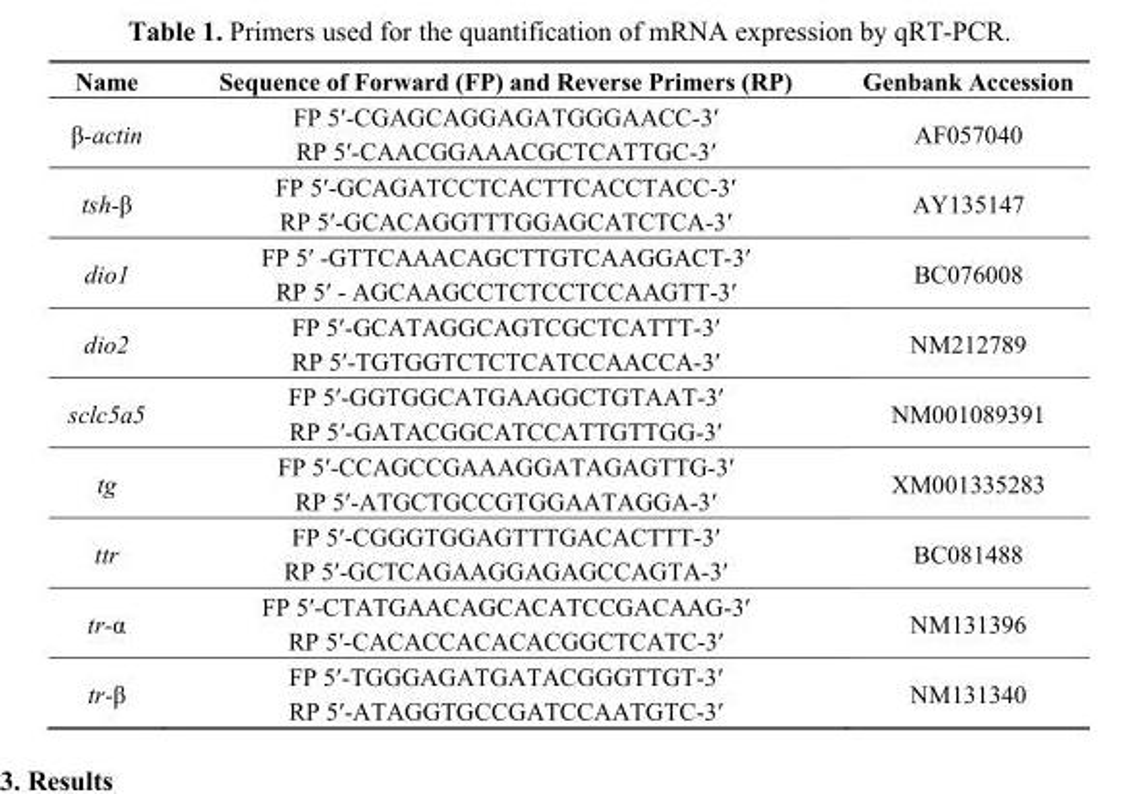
<table><thead><tr><td>Name</td><td>Sequence of Forward (FP) and Reverse Primers (RP)</td><td>Genbank Accession</td></tr></thead><tbody><tr><td>β-actin</td><td>FP 5′-CGAGCAGGAGATGGGAACC-3′ RP 5′-CAACGGAAACGCTCATTGC-3′</td><td>AF057040</td></tr><tr><td>tsh-β</td><td>FP 5′-GCAGATCCTCACTTCACCTACC-3′ RP 5′-GCACAGGTTTGGAGCATCTCA-3′</td><td>AY135147</td></tr><tr><td>dio1</td><td>FP 5′ -GTTCAAACAGCTTGTCAAGGACT-3′ RP 5′ - AGCAAGCCTCTCCTCCAAGTT-3′</td><td>BC076008</td></tr><tr><td>dio2</td><td>FP 5′-GCATAGGCAGTCGCTCATTT-3′ RP 5′-TGTGGTCTCTCATCCAACCA-3′</td><td>NM212789</td></tr><tr><td>sclc5a5</td><td>FP 5′-GGTGGCATGAAGGCTGTAAT-3′ RP 5′-GATACGGCATCCATTGTTGG-3′</td><td>NM001089391</td></tr><tr><td>tg</td><td>FP 5′-CCAGCCGAAAGGATAGAGTTG-3′ RP 5′-ATGCTGCCGTGGAATAGGA-3′</td><td>XM001335283</td></tr><tr><td>ttr</td><td>FP 5′-CGGGTGGAGTTTGACACTTT-3′ RP 5′-GCTCAGAAGGAGAGCCAGTA-3′</td><td>BC081488</td></tr><tr><td>tr-α</td><td>FP 5′-CTATGAACAGCACATCCGACAAG-3′ RP 5′-CACACCACACACGGCTCATC-3′</td><td>NM131396</td></tr><tr><td>tr-β</td><td>FP 5′-TGGGAGATGATACGGGTTGT-3′ RP 5′-ATAGGTGCCGATCCAATGTC-3′</td><td>NM131340</td></tr></tbody></table>